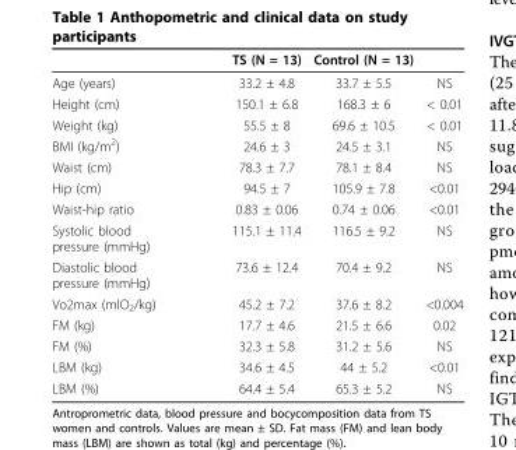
<table><thead><tr><td></td><td>TS (N = 13)</td><td>Control (N = 13)</td><td></td></tr></thead><tbody><tr><td>Age (years)</td><td>33.2 ± 4.8</td><td>33.7 ± 5.5</td><td>NS</td></tr><tr><td>Height (cm)</td><td>150.1 ± 6.8</td><td>168.3 ± 6</td><td>&lt; 0.01</td></tr><tr><td>Weight (kg)</td><td>55.5 ± 8</td><td>69.6 ± 10.5</td><td>&lt; 0.01</td></tr><tr><td>BMI (kg/m<sup>2</sup>)</td><td>24.6 ± 3</td><td>24.5 ± 3.1</td><td>NS</td></tr><tr><td>Waist (cm)</td><td>78.3 ± 7.7</td><td>78.1 ± 8.4</td><td>NS</td></tr><tr><td>Hip (cm)</td><td>94.5 ± 7</td><td>105.9 ± 7.8</td><td>&lt;0.01</td></tr><tr><td>Waist-hip ratio</td><td>0.83 ± 0.06</td><td>0.74 ± 0.06</td><td>&lt;0.01</td></tr><tr><td>Systolic blood pressure (mmHg)</td><td>115.1 ± 11.4</td><td>116.5 ± 9.2</td><td>NS</td></tr><tr><td>Diastolic blood pressure (mmHg)</td><td>73.6 ± 12.4</td><td>70.4 ± 9.2</td><td>NS</td></tr><tr><td>Vo2max (mlO<sub>2</sub>/kg)</td><td>45.2 ± 7.2</td><td>37.6 ± 8.2</td><td>&lt;0.004</td></tr><tr><td>FM (kg)</td><td>17.7 ± 4.6</td><td>21.5 ± 6.6</td><td>0.02</td></tr><tr><td>FM (%)</td><td>32.3 ± 5.8</td><td>31.2 ± 5.6</td><td>NS</td></tr><tr><td>LBM (kg)</td><td>34.6 ± 4.5</td><td>44 ± 5.2</td><td>&lt;0.01</td></tr><tr><td>LBM (%)</td><td>64.4 ± 5.4</td><td>65.3 ± 5.2</td><td>NS</td></tr></tbody></table>